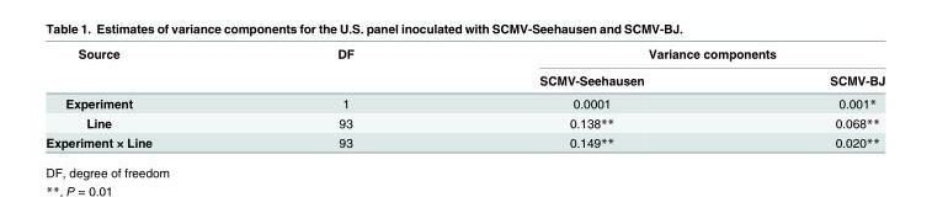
<table><thead><tr><td rowspan="2">Source</td><td rowspan="2">DF</td><td colspan="2">Variance components</td></tr><tr><td>SCMV-Seehausen</td><td>SCMV-BJ</td></tr></thead><tbody><tr><td>Experiment</td><td>1</td><td>0.0001</td><td>0.001*</td></tr><tr><td>Line</td><td>93</td><td>0.138**</td><td>0.068**</td></tr><tr><td>Experiment × Line</td><td>93</td><td>0.149**</td><td>0.020**</td></tr></tbody></table>